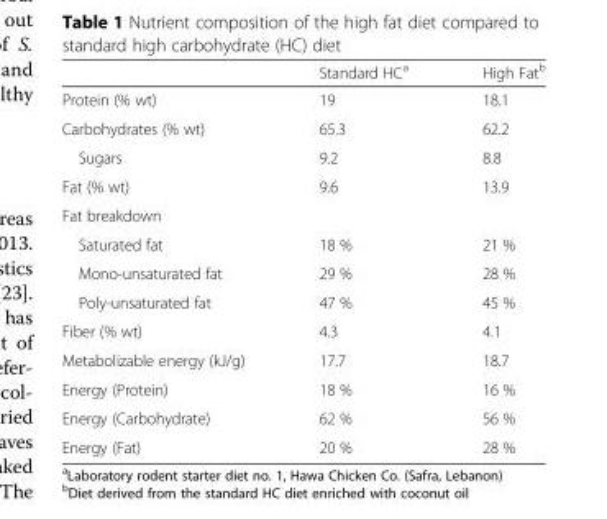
<table><thead><tr><td></td><td>Standard HC<sup>a</sup></td><td>High Fat<sup>b</sup></td></tr></thead><tbody><tr><td>Protein (% wt)</td><td>19</td><td>18.1</td></tr><tr><td>Carbohydrates (% wt)</td><td>65.3</td><td>62.2</td></tr><tr><td>Sugars</td><td>9.2</td><td>8.8</td></tr><tr><td>Fat (% wt)</td><td>9.6</td><td>13.9</td></tr><tr><td colspan="3">Fat breakdown</td></tr><tr><td>Saturated fat</td><td>18 %</td><td>21 %</td></tr><tr><td>Mono-unsaturated fat</td><td>29 %</td><td>28 %</td></tr><tr><td>Poly-unsaturated fat</td><td>47 %</td><td>45 %</td></tr><tr><td>Fiber (% wt)</td><td>4.3</td><td>4.1</td></tr><tr><td>Metabolizable energy (kJ/g)</td><td>17.7</td><td>18.7</td></tr><tr><td>Energy (Protein)</td><td>18 %</td><td>16 %</td></tr><tr><td>Energy (Carbohydrate)</td><td>62 %</td><td>56 %</td></tr><tr><td>Energy (Fat)</td><td>20 %</td><td>28 %</td></tr></tbody></table>